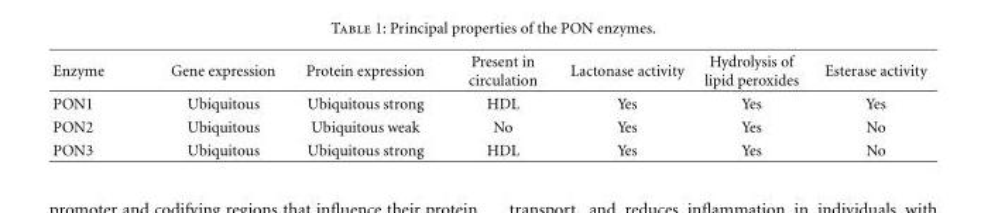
<table><thead><tr><td>Enzyme</td><td>Gene expression</td><td>Protein expression</td><td>Present in circulation</td><td>Lactonase activity</td><td>Hydrolysis of lipid peroxides</td><td>Esterase activity</td></tr></thead><tbody><tr><td>PON1</td><td>Ubiquitous</td><td>Ubiquitous strong</td><td>HDL</td><td>Yes</td><td>Yes</td><td>Yes</td></tr><tr><td>PON2</td><td>Ubiquitous</td><td>Ubiquitous weak</td><td>No</td><td>Yes</td><td>Yes</td><td>No</td></tr><tr><td>PON3</td><td>Ubiquitous</td><td>Ubiquitous strong</td><td>HDL</td><td>Yes</td><td>Yes</td><td>No</td></tr></tbody></table>